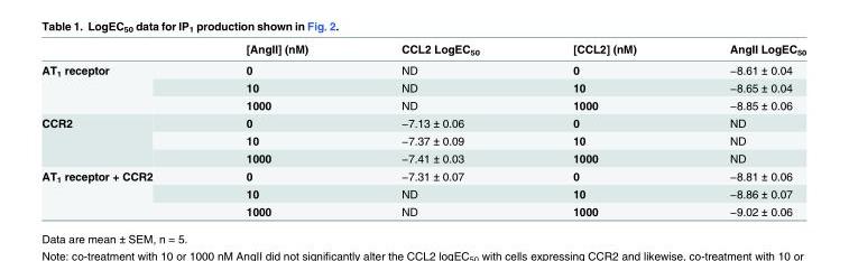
<table><thead><tr><td></td><td>[AngII] (nM)</td><td>CCL2 LogEC<sub>50</sub></td><td>[CCL2] (nM)</td><td>AngII LogEC<sub>50</sub></td></tr></thead><tbody><tr><td rowspan="3">AT<sub>1</sub> receptor</td><td>0</td><td>ND</td><td>0</td><td>−8.61 ± 0.04</td></tr><tr><td>10</td><td>ND</td><td>10</td><td>−8.65 ± 0.04</td></tr><tr><td>1000</td><td>ND</td><td>1000</td><td>−8.85 ± 0.06</td></tr><tr><td rowspan="3">CCR2</td><td>0</td><td>−7.13 ± 0.06</td><td>0</td><td>ND</td></tr><tr><td>10</td><td>−7.37 ± 0.09</td><td>10</td><td>ND</td></tr><tr><td>1000</td><td>−7.41 ± 0.03</td><td>1000</td><td>ND</td></tr><tr><td rowspan="3">AT<sub>1</sub> receptor + CCR2</td><td>0</td><td>−7.31 ± 0.07</td><td>0</td><td>−8.81 ± 0.06</td></tr><tr><td>10</td><td>ND</td><td>10</td><td>−8.86 ± 0.07</td></tr><tr><td>1000</td><td>ND</td><td>1000</td><td>−9.02 ± 0.06</td></tr></tbody></table>